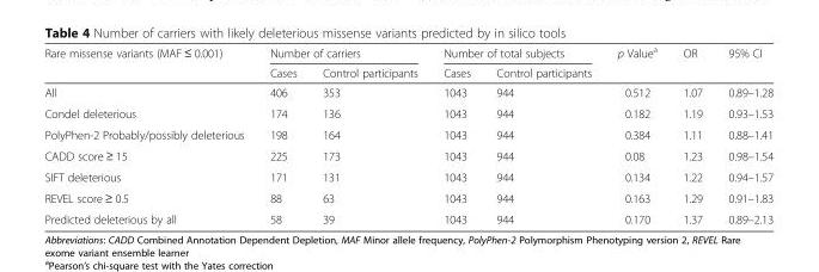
<table><thead><tr><td rowspan="2">Rare missense variants (MAF ≤ 0.001)</td><td colspan="2">Number of carriers</td><td colspan="2">Number of total subjects</td><td rowspan="2">p Value<sup>a</sup></td><td rowspan="2">OR</td><td rowspan="2">95% CI</td></tr><tr><td>Cases</td><td>Control participants</td><td>Cases</td><td>Control participants</td></tr></thead><tbody><tr><td>All</td><td>406</td><td>353</td><td>1043</td><td>944</td><td>0.512</td><td>1.07</td><td>0.89–1.28</td></tr><tr><td>Condel deleterious</td><td>174</td><td>136</td><td>1043</td><td>944</td><td>0.182</td><td>1.19</td><td>0.93–1.53</td></tr><tr><td>PolyPhen-2 Probably/possibly deleterious</td><td>198</td><td>164</td><td>1043</td><td>944</td><td>0.384</td><td>1.11</td><td>0.88–1.41</td></tr><tr><td>CADD score ≥ 15</td><td>225</td><td>173</td><td>1043</td><td>944</td><td>0.08</td><td>1.23</td><td>0.98–1.54</td></tr><tr><td>SIFT deleterious</td><td>171</td><td>131</td><td>1043</td><td>944</td><td>0.134</td><td>1.22</td><td>0.94–1.57</td></tr><tr><td>REVEL score ≥ 0.5</td><td>88</td><td>63</td><td>1043</td><td>944</td><td>0.163</td><td>1.29</td><td>0.91–1.83</td></tr><tr><td>Predicted deleterious by all</td><td>58</td><td>39</td><td>1043</td><td>944</td><td>0.170</td><td>1.37</td><td>0.89–2.13</td></tr></tbody></table>